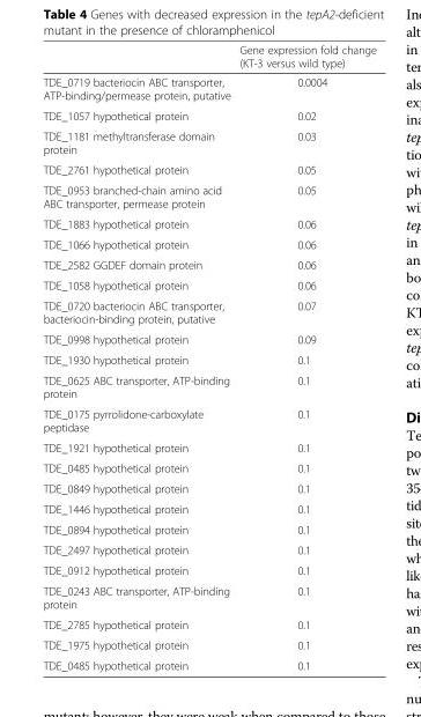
<table><thead><tr><td></td><td>Gene expression fold change (KT-3 versus wild type)</td></tr></thead><tbody><tr><td>TDE_0719 bacteriocin ABC transporter, ATP-binding/permease protein, putative</td><td>0.0004</td></tr><tr><td>TDE_1057 hypothetical protein</td><td>0.02</td></tr><tr><td>TDE_1181 methyltransferase domain protein</td><td>0.03</td></tr><tr><td>TDE_2761 hypothetical protein</td><td>0.05</td></tr><tr><td>TDE_0953 branched-chain amino acid ABC transporter, permease protein</td><td>0.05</td></tr><tr><td>TDE_1883 hypothetical protein</td><td>0.06</td></tr><tr><td>TDE_1066 hypothetical protein</td><td>0.06</td></tr><tr><td>TDE_2582 GGDEF domain protein</td><td>0.06</td></tr><tr><td>TDE_1058 hypothetical protein</td><td>0.06</td></tr><tr><td>TDE_0720 bacteriocin ABC transporter, bacteriocin-binding protein, putative</td><td>0.07</td></tr><tr><td>TDE_0998 hypothetical protein</td><td>0.09</td></tr><tr><td>TDE_1930 hypothetical protein</td><td>0.1</td></tr><tr><td>TDE_0625 ABC transporter, ATP-binding protein</td><td>0.1</td></tr><tr><td>TDE_0175 pyrrolidone-carboxylate peptidase</td><td>0.1</td></tr><tr><td>TDE_1921 hypothetical protein</td><td>0.1</td></tr><tr><td>TDE_0485 hypothetical protein</td><td>0.1</td></tr><tr><td>TDE_0849 hypothetical protein</td><td>0.1</td></tr><tr><td>TDE_1446 hypothetical protein</td><td>0.1</td></tr><tr><td>TDE_0894 hypothetical protein</td><td>0.1</td></tr><tr><td>TDE_2497 hypothetical protein</td><td>0.1</td></tr><tr><td>TDE_0912 hypothetical protein</td><td>0.1</td></tr><tr><td>TDE_0243 ABC transporter, ATP-binding protein</td><td>0.1</td></tr><tr><td>TDE_2785 hypothetical protein</td><td>0.1</td></tr><tr><td>TDE_1975 hypothetical protein</td><td>0.1</td></tr><tr><td>TDE_0485 hypothetical protein</td><td>0.1</td></tr></tbody></table>